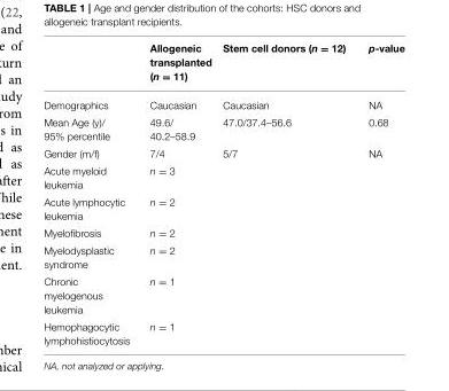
<table><thead><tr><td></td><td>Allogeneic transplanted (n = 11)</td><td>Stem cell donors (n = 12)</td><td>p-value</td></tr></thead><tbody><tr><td>Demographics</td><td>Caucasian</td><td>Caucasian</td><td>NA</td></tr><tr><td>Mean Age (y)/ 95% percentile</td><td>49.6/ 40.2–58.9</td><td>47.0/37.4–56.6</td><td>0.68</td></tr><tr><td>Gender (m/f)</td><td>7/4</td><td>5/7</td><td>NA</td></tr><tr><td>Acute myeloid leukemia</td><td>n = 3</td><td></td><td></td></tr><tr><td>Acute lymphocytic leukemia</td><td>n = 2</td><td></td><td></td></tr><tr><td>Myelofibrosis</td><td>n = 2</td><td></td><td></td></tr><tr><td>Myelodysplastic syndrome</td><td>n = 2</td><td></td><td></td></tr><tr><td>Chronic myelogenous leukemia</td><td>n = 1</td><td></td><td></td></tr><tr><td>Hemophagocytic lymphohistiocytosis</td><td>n = 1</td><td></td><td></td></tr></tbody></table>